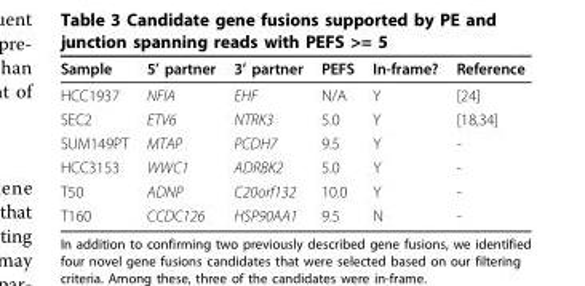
<table><thead><tr><td>Sample</td><td>5’ partner</td><td>3’ partner</td><td>PEFS</td><td>In-frame?</td><td>Reference</td></tr></thead><tbody><tr><td>HCC1937</td><td>NFIA</td><td>EHF</td><td>N/A</td><td>Y</td><td>[24]</td></tr><tr><td>SEC2</td><td>ETV6</td><td>NTRK3</td><td>5.0</td><td>Y</td><td>[18,34]</td></tr><tr><td>SUM149PT</td><td>MTAP</td><td>PCDH7</td><td>9.5</td><td>Y</td><td>-</td></tr><tr><td>HCC3153</td><td>WWC1</td><td>ADRBK2</td><td>5.0</td><td>Y</td><td>-</td></tr><tr><td>T50</td><td>ADNP</td><td>C20orf132</td><td>10.0</td><td>Y</td><td>-</td></tr><tr><td>T160</td><td>CCDC126</td><td>HSP90AA1</td><td>9.5</td><td>N</td><td>-</td></tr></tbody></table>